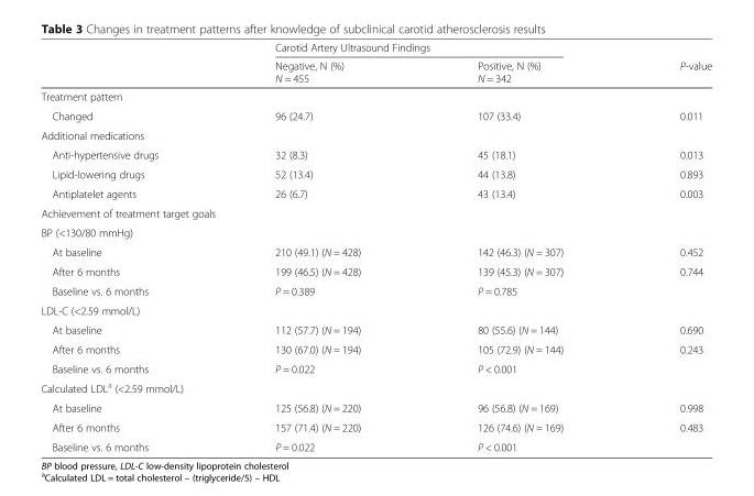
<table><thead><tr><td rowspan="2"></td><td colspan="2">Carotid Artery Ultrasound Findings</td><td rowspan="2">P-value</td></tr><tr><td>Negative, N (%) N = 455</td><td>Positive, N (%) N = 342</td></tr></thead><tbody><tr><td colspan="4">Treatment pattern</td></tr><tr><td>Changed</td><td>96 (24.7)</td><td>107 (33.4)</td><td>0.011</td></tr><tr><td colspan="4">Additional medications</td></tr><tr><td>Anti-hypertensive drugs</td><td>32 (8.3)</td><td>45 (18.1)</td><td>0.013</td></tr><tr><td>Lipid-lowering drugs</td><td>52 (13.4)</td><td>44 (13.8)</td><td>0.893</td></tr><tr><td>Antiplatelet agents</td><td>26 (6.7)</td><td>43 (13.4)</td><td>0.003</td></tr><tr><td colspan="4">Achievement of treatment target goals</td></tr><tr><td colspan="4">BP (&lt;130/80 mmHg)</td></tr><tr><td>At baseline</td><td>210 (49.1) (N = 428)</td><td>142 (46.3) (N = 307)</td><td>0.452</td></tr><tr><td>After 6 months</td><td>199 (46.5) (N = 428)</td><td>139 (45.3) (N = 307)</td><td>0.744</td></tr><tr><td>Baseline vs. 6 months</td><td>P = 0.389</td><td>P = 0.785</td><td></td></tr><tr><td colspan="4">LDL-C (&lt;2.59 mmol/L)</td></tr><tr><td>At baseline</td><td>112 (57.7) (N = 194)</td><td>80 (55.6) (N = 144)</td><td>0.690</td></tr><tr><td>After 6 months</td><td>130 (67.0) (N = 194)</td><td>105 (72.9) (N = 144)</td><td>0.243</td></tr><tr><td>Baseline vs. 6 months</td><td>P = 0.022</td><td>P &lt; 0.001</td><td></td></tr><tr><td colspan="4">Calculated LDL<sup>a</sup> (&lt;2.59 mmol/L)</td></tr><tr><td>At baseline</td><td>125 (56.8) (N = 220)</td><td>96 (56.8) (N = 169)</td><td>0.998</td></tr><tr><td>After 6 months</td><td>157 (71.4) (N = 220)</td><td>126 (74.6) (N = 169)</td><td>0.483</td></tr><tr><td>Baseline vs. 6 months</td><td>P = 0.022</td><td>P &lt; 0.001</td><td></td></tr></tbody></table>